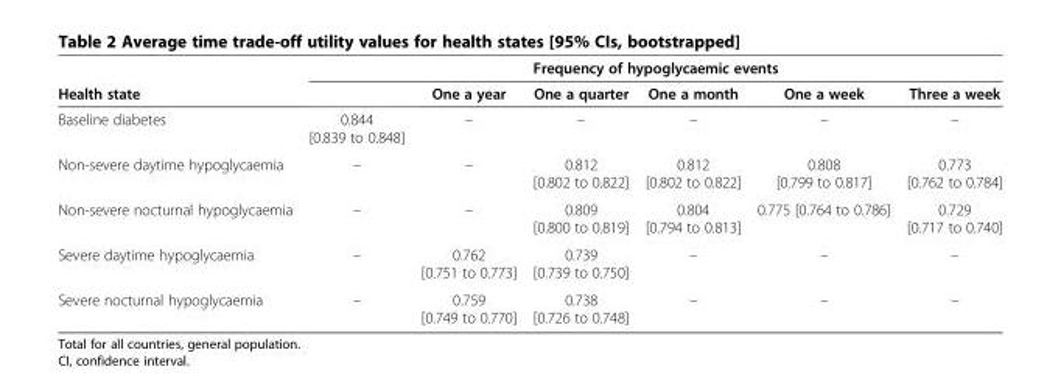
<table><thead><tr><td rowspan="2">Health state</td><td colspan="6">Frequency of hypoglycaemic events</td></tr><tr><td></td><td>One a year</td><td>One a quarter</td><td>One a month</td><td>One a week</td><td>Three a week</td></tr></thead><tbody><tr><td>Baseline diabetes</td><td>0.844 [0.839 to 0.848]</td><td>–</td><td>–</td><td>–</td><td>–</td><td>–</td></tr><tr><td>Non-severe daytime hypoglycaemia</td><td>–</td><td>–</td><td>0.812 [0.802 to 0.822]</td><td>0.812 [0.802 to 0.822]</td><td>0.808 [0.799 to 0.817]</td><td>0.773 [0.762 to 0.784]</td></tr><tr><td>Non-severe nocturnal hypoglycaemia</td><td>–</td><td>–</td><td>0.809 [0.800 to 0.819]</td><td>0.804 [0.794 to 0.813]</td><td>0.775 [0.764 to 0.786]</td><td>0.729 [0.717 to 0.740]</td></tr><tr><td>Severe daytime hypoglycaemia</td><td>–</td><td>0.762 [0.751 to 0.773]</td><td>0.739 [0.739 to 0.750]</td><td>–</td><td>–</td><td>–</td></tr><tr><td>Severe nocturnal hypoglycaemia</td><td>–</td><td>0.759 [0.749 to 0.770]</td><td>0.738 [0.726 to 0.748]</td><td>–</td><td>–</td><td>–</td></tr></tbody></table>